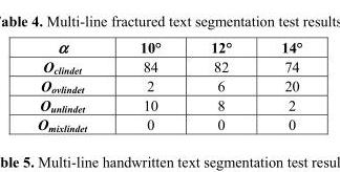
<table><thead><tr><td>α</td><td>10°</td><td>12°</td><td>14°</td></tr></thead><tbody><tr><td>O<sub>clindet</sub></td><td>84</td><td>82</td><td>74</td></tr><tr><td>O<sub>ovlindet</sub></td><td>2</td><td>6</td><td>20</td></tr><tr><td>O<sub>unlindet</sub></td><td>10</td><td>8</td><td>2</td></tr><tr><td>O<sub>mixlindet</sub></td><td>0</td><td>0</td><td>0</td></tr></tbody></table>